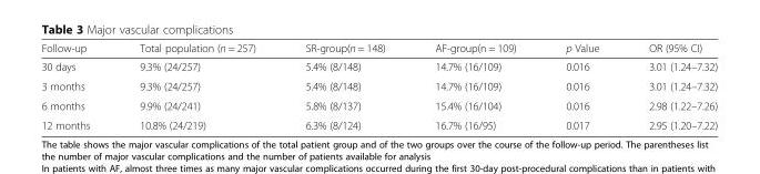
<table><thead><tr><td>Follow-up</td><td>Total population (n = 257)</td><td>SR-group(n = 148)</td><td>AF-group(n = 109)</td><td>p Value</td><td>OR (95% CI)</td></tr></thead><tbody><tr><td>30 days</td><td>9.3% (24/257)</td><td>5.4% (8/148)</td><td>14.7% (16/109)</td><td>0.016</td><td>3.01 (1.24–7.32)</td></tr><tr><td>3 months</td><td>9.3% (24/257)</td><td>5.4% (8/148)</td><td>14.7% (16/109)</td><td>0.016</td><td>3.01 (1.24–7.32)</td></tr><tr><td>6 months</td><td>9.9% (24/241)</td><td>5.8% (8/137)</td><td>15.4% (16/104)</td><td>0.016</td><td>2.98 (1.22–7.26)</td></tr><tr><td>12 months</td><td>10.8% (24/219)</td><td>6.3% (8/124)</td><td>16.7% (16/95)</td><td>0.017</td><td>2.95 (1.20–7.22)</td></tr></tbody></table>